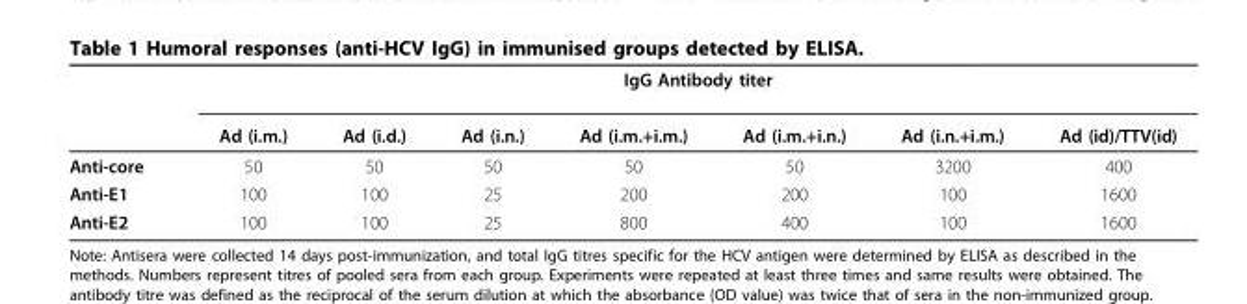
<table><thead><tr><td rowspan="2"></td><td colspan="7">IgG Antibody titer</td></tr><tr><td>Ad (i.m.)</td><td>Ad (i.d.)</td><td>Ad (i.n.)</td><td>Ad (i.m.+i.m.)</td><td>Ad (i.m.+i.n.)</td><td>Ad (i.n.+i.m.)</td><td>Ad (id)/TTV(id)</td></tr></thead><tbody><tr><td>Anti-core</td><td>50</td><td>50</td><td>50</td><td>50</td><td>50</td><td>3200</td><td>400</td></tr><tr><td>Anti-E1</td><td>100</td><td>100</td><td>25</td><td>200</td><td>200</td><td>100</td><td>1600</td></tr><tr><td>Anti-E2</td><td>100</td><td>100</td><td>25</td><td>800</td><td>400</td><td>100</td><td>1600</td></tr></tbody></table>